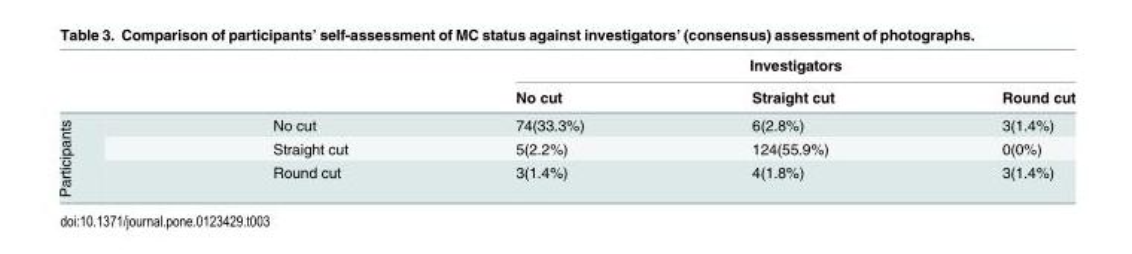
<table><thead><tr><td rowspan="2"></td><td rowspan="2"></td><td colspan="3">Investigators</td></tr><tr><td>No cut</td><td>Straight cut</td><td>Round cut</td></tr></thead><tbody><tr><td rowspan="3">Participants</td><td>No cut</td><td>74(33.3%)</td><td>6(2.8%)</td><td>3(1.4%)</td></tr><tr><td>Straight cut</td><td>5(2.2%)</td><td>124(55.9%)</td><td>0(0%)</td></tr><tr><td>Round cut</td><td>3(1.4%)</td><td>4(1.8%)</td><td>3(1.4%)</td></tr></tbody></table>